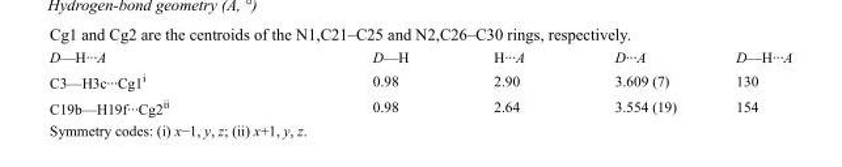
<table><tbody><tr><td>D—H···A</td><td>D—H</td><td>H···A</td><td>D···A</td><td>D—H···A</td></tr><tr><td>C3—H3c···Cg1<sup>i</sup></td><td>0.98</td><td>2.90</td><td>3.609 (7)</td><td>130</td></tr><tr><td>C19b—H19f···Cg2<sup>ii</sup></td><td>0.98</td><td>2.64</td><td>3.554 (19)</td><td>154</td></tr></tbody></table>